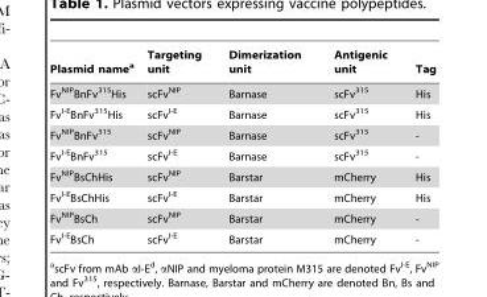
<table><thead><tr><td>Plasmid name<sup>a</sup></td><td>Targeting unit</td><td>Dimerization unit</td><td>Antigenic unit</td><td>Tag</td></tr></thead><tbody><tr><td>Fv<sup>NIP</sup>BnFv<sup>315</sup>His</td><td>scFv<sup>NIP</sup></td><td>Barnase</td><td>scFv<sup>315</sup></td><td>His</td></tr><tr><td>Fv<sup>I-E</sup>BnFv<sup>315</sup>His</td><td>scFv<sup>I-E</sup></td><td>Barnase</td><td>scFv<sup>315</sup></td><td>His</td></tr><tr><td>Fv<sup>NIP</sup>BnFv<sup>315</sup></td><td>scFv<sup>NIP</sup></td><td>Barnase</td><td>scFv<sup>315</sup></td><td>-</td></tr><tr><td>Fv<sup>I-E</sup>BnFv<sup>315</sup></td><td>scFv<sup>I-E</sup></td><td>Barnase</td><td>scFv<sup>315</sup></td><td>-</td></tr><tr><td>Fv<sup>NIP</sup>BsChHis</td><td>scFv<sup>NIP</sup></td><td>Barstar</td><td>mCherry</td><td>His</td></tr><tr><td>Fv<sup>I-E</sup>BsChHis</td><td>scFv<sup>I-E</sup></td><td>Barstar</td><td>mCherry</td><td>His</td></tr><tr><td>Fv<sup>NIP</sup>BsCh</td><td>scFv<sup>NIP</sup></td><td>Barstar</td><td>mCherry</td><td>-</td></tr><tr><td>Fv<sup>I-E</sup>BsCh</td><td>scFv<sup>I-E</sup></td><td>Barstar</td><td>mCherry</td><td>-</td></tr></tbody></table>